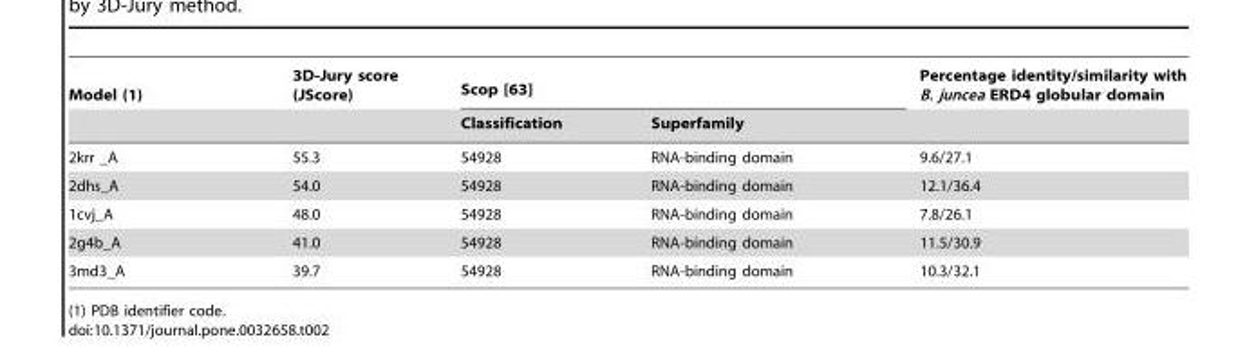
<table><thead><tr><td rowspan="2">Model (1)</td><td rowspan="2">3D-Jury score (JScore)</td><td colspan="2">Scop [63]</td><td rowspan="2">Percentage identity/similarity with B. juncea ERD4 globular domain</td></tr><tr><td>Classification</td><td>Superfamily</td></tr></thead><tbody><tr><td>2krr _A</td><td>55.3</td><td>54928</td><td>RNA-binding domain</td><td>9.6/27.1</td></tr><tr><td>2dhs_A</td><td>54.0</td><td>54928</td><td>RNA-binding domain</td><td>12.1/36.4</td></tr><tr><td>1cvj_A</td><td>48.0</td><td>54928</td><td>RNA-binding domain</td><td>7.8/26.1</td></tr><tr><td>2g4b_A</td><td>41.0</td><td>54928</td><td>RNA-binding domain</td><td>11.5/30.9</td></tr><tr><td>3md3_A</td><td>39.7</td><td>54928</td><td>RNA-binding domain</td><td>10.3/32.1</td></tr></tbody></table>